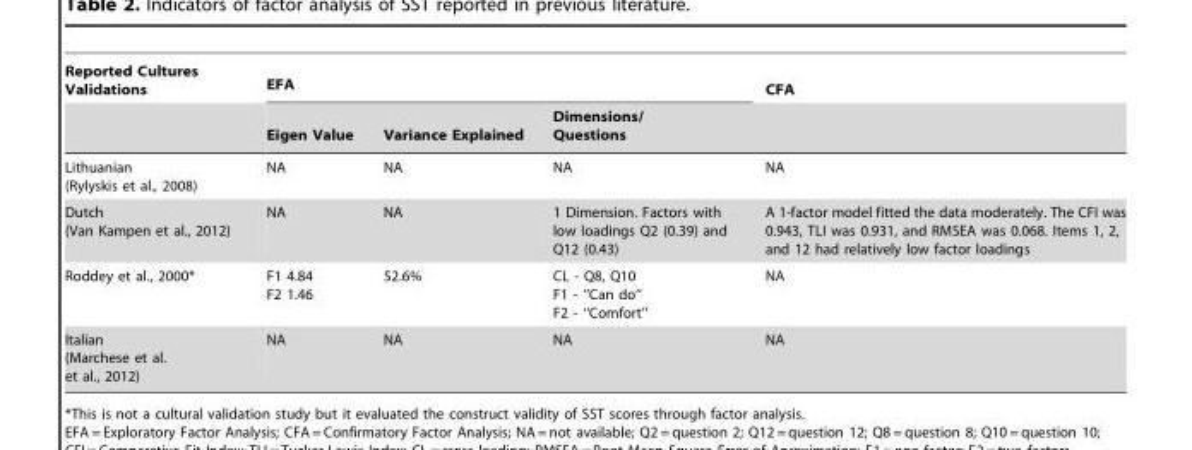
<table><thead><tr><td rowspan="2">Reported Cultures Validations</td><td colspan="3">EFA</td><td rowspan="2">CFA</td></tr><tr><td>Eigen Value</td><td>Variance Explained</td><td>Dimensions/ Questions</td></tr></thead><tbody><tr><td>Lithuanian (Rylyskis et al., 2008)</td><td>NA</td><td>NA</td><td>NA</td><td>NA</td></tr><tr><td>Dutch (Van Kampen et al., 2012)</td><td>NA</td><td>NA</td><td>1 Dimension. Factors with low loadings Q2 (0.39) and Q12 (0.43)</td><td>A 1-factor model fitted the data moderately. The CFI was 0.943, TLI was 0.931, and RMSEA was 0.068. Items 1, 2, and 12 had relatively low factor loadings</td></tr><tr><td>Roddey et al., 2000*</td><td>F1 4.84 F2 1.46</td><td>52.6%</td><td>CL - Q8, Q10 F1 - ‘‘Can do’’ F2 - ‘‘Comfort’’</td><td>NA</td></tr><tr><td>Italian (Marchese et al. et al., 2012)</td><td>NA</td><td>NA</td><td>NA</td><td>NA</td></tr></tbody></table>